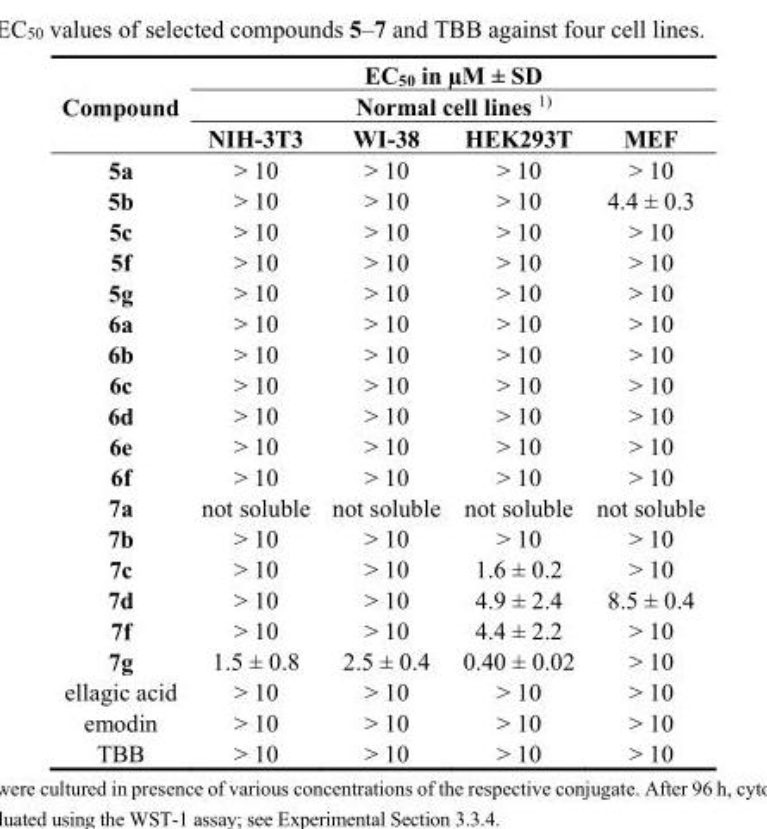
<table><thead><tr><td rowspan="3">Compound</td><td rowspan="2" colspan="4">EC<sub>50</sub> in µM ± SD Normal cell lines <sup>1)</sup></td></tr><tr></tr><tr><td>NIH-3T3</td><td>WI-38</td><td>HEK293T</td><td>MEF</td></tr></thead><tbody><tr><td>5a</td><td>&gt; 10</td><td>&gt; 10</td><td>&gt; 10</td><td>&gt; 10</td></tr><tr><td>5b</td><td>&gt; 10</td><td>&gt; 10</td><td>&gt; 10</td><td>4.4 ± 0.3</td></tr><tr><td>5c</td><td>&gt; 10</td><td>&gt; 10</td><td>&gt; 10</td><td>&gt; 10</td></tr><tr><td>5f</td><td>&gt; 10</td><td>&gt; 10</td><td>&gt; 10</td><td>&gt; 10</td></tr><tr><td>5g</td><td>&gt; 10</td><td>&gt; 10</td><td>&gt; 10</td><td>&gt; 10</td></tr><tr><td>6a</td><td>&gt; 10</td><td>&gt; 10</td><td>&gt; 10</td><td>&gt; 10</td></tr><tr><td>6b</td><td>&gt; 10</td><td>&gt; 10</td><td>&gt; 10</td><td>&gt; 10</td></tr><tr><td>6c</td><td>&gt; 10</td><td>&gt; 10</td><td>&gt; 10</td><td>&gt; 10</td></tr><tr><td>6d</td><td>&gt; 10</td><td>&gt; 10</td><td>&gt; 10</td><td>&gt; 10</td></tr><tr><td>6e</td><td>&gt; 10</td><td>&gt; 10</td><td>&gt; 10</td><td>&gt; 10</td></tr><tr><td>6f</td><td>&gt; 10</td><td>&gt; 10</td><td>&gt; 10</td><td>&gt; 10</td></tr><tr><td>7a</td><td>not soluble</td><td>not soluble</td><td>not soluble</td><td>not soluble</td></tr><tr><td>7b</td><td>&gt; 10</td><td>&gt; 10</td><td>&gt; 10</td><td>&gt; 10</td></tr><tr><td>7c</td><td>&gt; 10</td><td>&gt; 10</td><td>1.6 ± 0.2</td><td>&gt; 10</td></tr><tr><td>7d</td><td>&gt; 10</td><td>&gt; 10</td><td>4.9 ± 2.4</td><td>8.5 ± 0.4</td></tr><tr><td>7f</td><td>&gt; 10</td><td>&gt; 10</td><td>4.4 ± 2.2</td><td>&gt; 10</td></tr><tr><td>7g</td><td>1.5 ± 0.8</td><td>2.5 ± 0.4</td><td>0.40 ± 0.02</td><td>&gt; 10</td></tr><tr><td>ellagic acid</td><td>&gt; 10</td><td>&gt; 10</td><td>&gt; 10</td><td>&gt; 10</td></tr><tr><td>emodin</td><td>&gt; 10</td><td>&gt; 10</td><td>&gt; 10</td><td>&gt; 10</td></tr><tr><td>TBB</td><td>&gt; 10</td><td>&gt; 10</td><td>&gt; 10</td><td>&gt; 10</td></tr></tbody></table>